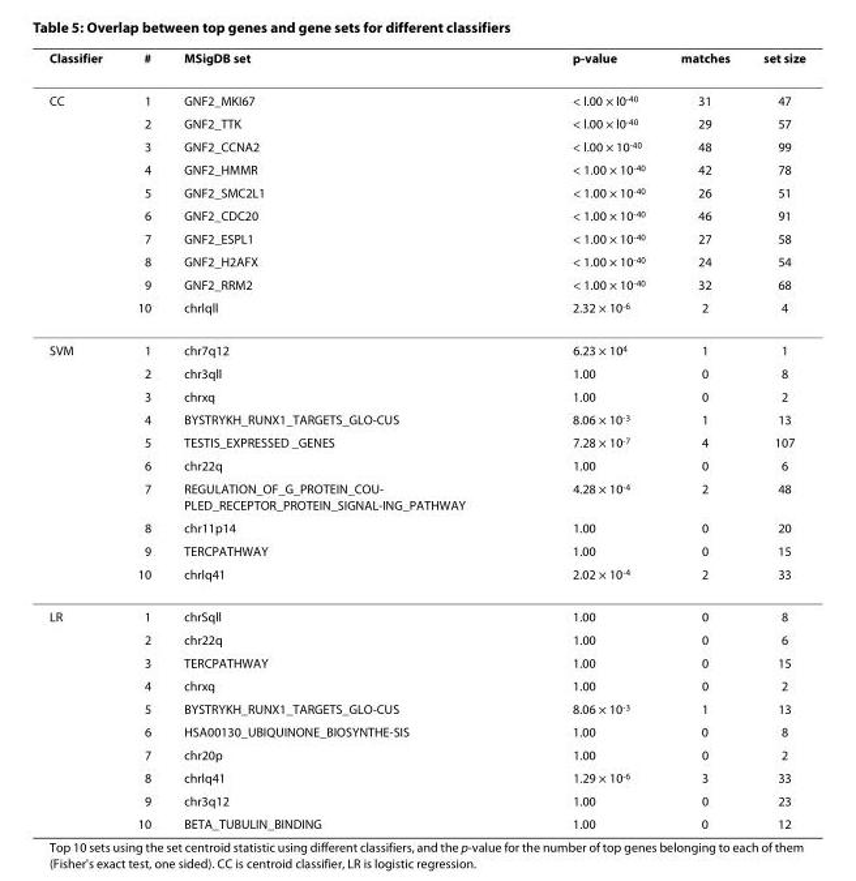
<table><thead><tr><td>Classifier</td><td>#</td><td>MSigDB set</td><td>p-value</td><td>matches</td><td>set size</td></tr></thead><tbody><tr><td rowspan="10">CC</td><td>1</td><td>GNF2_MKI67</td><td>&lt; l.00 × l0<sup>-40</sup></td><td>31</td><td>47</td></tr><tr><td>2</td><td>GNF2_TTK</td><td>&lt; l.00 × l0<sup>-40</sup></td><td>29</td><td>57</td></tr><tr><td>3</td><td>GNF2_CCNA2</td><td>&lt; l.00 × 10<sup>-40</sup></td><td>48</td><td>99</td></tr><tr><td>4</td><td>GNF2_HMMR</td><td>&lt; 1.00 × 10<sup>-40</sup></td><td>42</td><td>78</td></tr><tr><td>5</td><td>GNF2_SMC2L1</td><td>&lt; 1.00 × 10<sup>-40</sup></td><td>26</td><td>51</td></tr><tr><td>6</td><td>GNF2_CDC20</td><td>&lt; 1.00 × 10<sup>-40</sup></td><td>46</td><td>91</td></tr><tr><td>7</td><td>GNF2_ESPL1</td><td>&lt; 1.00 × 10<sup>-40</sup></td><td>27</td><td>58</td></tr><tr><td>8</td><td>GNF2_H2AFX</td><td>&lt; 1.00 × 10<sup>-40</sup></td><td>24</td><td>54</td></tr><tr><td>9</td><td>GNF2_RRM2</td><td>&lt; 1.00 × 10<sup>-40</sup></td><td>32</td><td>68</td></tr><tr><td>10</td><td>chrlqll</td><td>2.32 × 10<sup>-6</sup></td><td>2</td><td>4</td></tr><tr><td rowspan="10">SVM</td><td>1</td><td>chr7q12</td><td>6.23 × 10<sup>4</sup></td><td>1</td><td>1</td></tr><tr><td>2</td><td>chr3qll</td><td>1.00</td><td>0</td><td>8</td></tr><tr><td>3</td><td>chrxq</td><td>1.00</td><td>0</td><td>2</td></tr><tr><td>4</td><td>BYSTRYKH_RUNX1_TARGETS_GLO-CUS</td><td>8.06 × 10<sup>-3</sup></td><td>1</td><td>13</td></tr><tr><td>5</td><td>TESTIS_EXPRESSED _GENES</td><td>7.28 × 10<sup>-7</sup></td><td>4</td><td>107</td></tr><tr><td>6</td><td>chr22q</td><td>1.00</td><td>0</td><td>6</td></tr><tr><td>7</td><td>REGULATION_OF_G_PROTEIN_COU- PLED_RECEPTOR_PROTEIN_SIGNAL-ING_PATHWAY</td><td>4.28 × 10<sup>-4</sup></td><td>2</td><td>48</td></tr><tr><td>8</td><td>chr11p14</td><td>1.00</td><td>0</td><td>20</td></tr><tr><td>9</td><td>TERCPATHWAY</td><td>1.00</td><td>0</td><td>15</td></tr><tr><td>10</td><td>chrlq41</td><td>2.02 × 10<sup>-4</sup></td><td>2</td><td>33</td></tr><tr><td rowspan="10">LR</td><td>1</td><td>chrSqll</td><td>1.00</td><td>0</td><td>8</td></tr><tr><td>2</td><td>chr22q</td><td>1.00</td><td>0</td><td>6</td></tr><tr><td>3</td><td>TERCPATHWAY</td><td>1.00</td><td>0</td><td>15</td></tr><tr><td>4</td><td>chrxq</td><td>1.00</td><td>0</td><td>2</td></tr><tr><td>5</td><td>BYSTRYKH_RUNX1_TARGETS_GLO-CUS</td><td>8.06 × 10<sup>-3</sup></td><td>1</td><td>13</td></tr><tr><td>6</td><td>HSA00130_UBIQUINONE_BIOSYNTHE-SIS</td><td>1.00</td><td>0</td><td>8</td></tr><tr><td>7</td><td>chr20p</td><td>1.00</td><td>0</td><td>2</td></tr><tr><td>8</td><td>chrlq41</td><td>1.29 × 10<sup>-6</sup></td><td>3</td><td>33</td></tr><tr><td>9</td><td>chr3q12</td><td>1.00</td><td>0</td><td>23</td></tr><tr><td>10</td><td>BETA_TUBULIN_BINDING</td><td>1.00</td><td>0</td><td>12</td></tr></tbody></table>